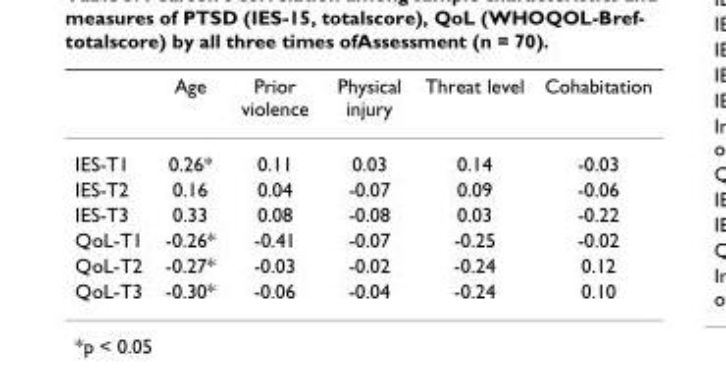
<table><thead><tr><td></td><td>Age</td><td>Prior violence</td><td>Physical injury</td><td>Threat level</td><td>Cohabitation</td></tr></thead><tbody><tr><td>IES-T1</td><td>0.26*</td><td>0.11</td><td>0.03</td><td>0.14</td><td>-0.03</td></tr><tr><td>IES-T2</td><td>0.16</td><td>0.04</td><td>-0.07</td><td>0.09</td><td>-0.06</td></tr><tr><td>IES-T3</td><td>0.33</td><td>0.08</td><td>-0.08</td><td>0.03</td><td>-0.22</td></tr><tr><td>QoL-T1</td><td>-0.26*</td><td>-0.41</td><td>-0.07</td><td>-0.25</td><td>-0.02</td></tr><tr><td>QoL-T2</td><td>-0.27*</td><td>-0.03</td><td>-0.02</td><td>-0.24</td><td>0.12</td></tr><tr><td>QoL-T3</td><td>-0.30*</td><td>-0.06</td><td>-0.04</td><td>-0.24</td><td>0.10</td></tr></tbody></table>